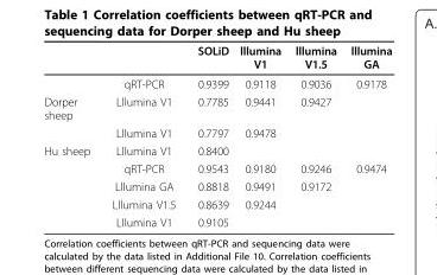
<table><thead><tr><td></td><td></td><td>SOLiD</td><td>lllumina V1</td><td>lllumina V1.5</td><td>lllumina GA</td></tr></thead><tbody><tr><td></td><td>qRT-PCR</td><td>0.9399</td><td>0.9118</td><td>0.9036</td><td>0.9178</td></tr><tr><td rowspan="2">Dorper sheep</td><td>Lllumina V1</td><td>0.7785</td><td>0.9441</td><td>0.9427</td><td></td></tr><tr><td>Lllumina V1</td><td>0.7797</td><td>0.9478</td><td></td><td></td></tr><tr><td rowspan="5">Hu sheep</td><td>Lllumina V1</td><td>0.8400</td><td></td><td></td><td></td></tr><tr><td>qRT-PCR</td><td>0.9543</td><td>0.9180</td><td>0.9246</td><td>0.9474</td></tr><tr><td>Lllumina GA</td><td>0.8818</td><td>0.9491</td><td>0.9172</td><td></td></tr><tr><td>Lllumina V1.5</td><td>0.8639</td><td>0.9244</td><td></td><td></td></tr><tr><td>Lllumina V1</td><td>0.9105</td><td></td><td></td><td></td></tr></tbody></table>